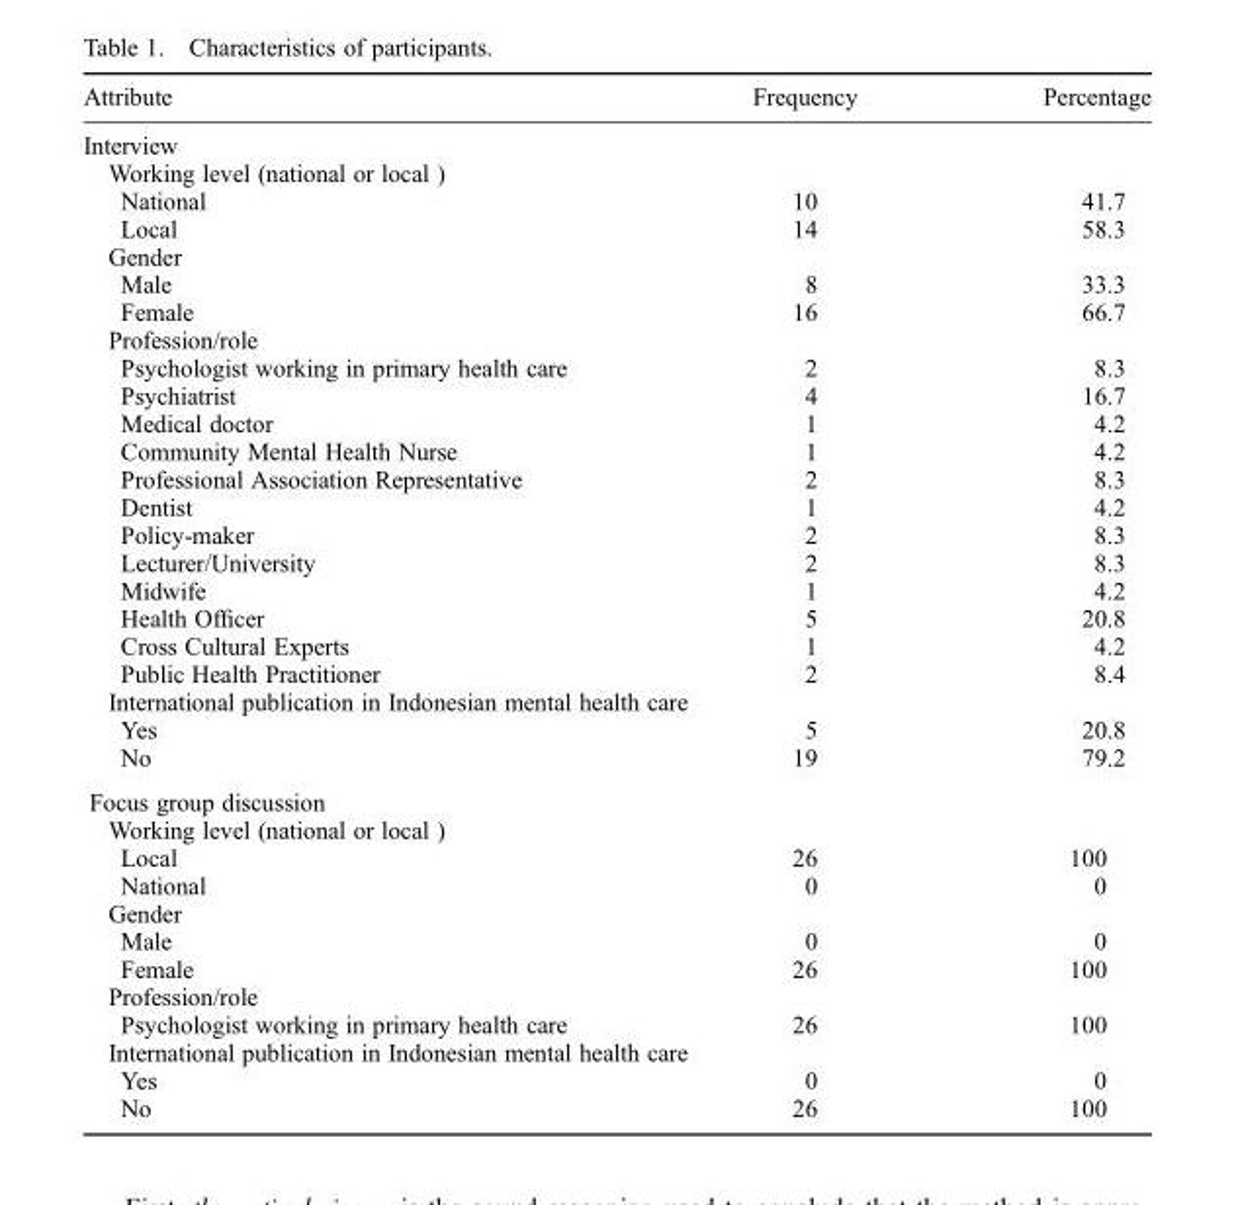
<table><thead><tr><td>Attribute</td><td>Frequency</td><td>Percentage</td></tr></thead><tbody><tr><td colspan="3">Interview</td></tr><tr><td colspan="3">Working level (national or local )</td></tr><tr><td>National</td><td>10</td><td>41.7</td></tr><tr><td>Local</td><td>14</td><td>58.3</td></tr><tr><td colspan="3">Gender</td></tr><tr><td>Male</td><td>8</td><td>33.3</td></tr><tr><td>Female</td><td>16</td><td>66.7</td></tr><tr><td colspan="3">Profession/role</td></tr><tr><td>Psychologist working in primary health care</td><td>2</td><td>8.3</td></tr><tr><td>Psychiatrist</td><td>4</td><td>16.7</td></tr><tr><td>Medical doctor</td><td>1</td><td>4.2</td></tr><tr><td>Community Mental Health Nurse</td><td>1</td><td>4.2</td></tr><tr><td>Professional Association Representative</td><td>2</td><td>8.3</td></tr><tr><td>Dentist</td><td>1</td><td>4.2</td></tr><tr><td>Policy-maker</td><td>2</td><td>8.3</td></tr><tr><td>Lecturer/University</td><td>2</td><td>8.3</td></tr><tr><td>Midwife</td><td>1</td><td>4.2</td></tr><tr><td>Health Officer</td><td>5</td><td>20.8</td></tr><tr><td>Cross Cultural Experts</td><td>1</td><td>4.2</td></tr><tr><td>Public Health Practitioner</td><td>2</td><td>8.4</td></tr><tr><td colspan="3">International publication in Indonesian mental health care</td></tr><tr><td>Yes</td><td>5</td><td>20.8</td></tr><tr><td>No</td><td>19</td><td>79.2</td></tr><tr><td colspan="3">Focus group discussion</td></tr><tr><td colspan="3">Working level (national or local )</td></tr><tr><td>Local</td><td>26</td><td>100</td></tr><tr><td>National</td><td>0</td><td>0</td></tr><tr><td colspan="3">Gender</td></tr><tr><td>Male</td><td>0</td><td>0</td></tr><tr><td>Female</td><td>26</td><td>100</td></tr><tr><td colspan="3">Profession/role</td></tr><tr><td>Psychologist working in primary health care</td><td>26</td><td>100</td></tr><tr><td colspan="3">International publication in Indonesian mental health care</td></tr><tr><td>Yes</td><td>0</td><td>0</td></tr><tr><td>No</td><td>26</td><td>100</td></tr></tbody></table>